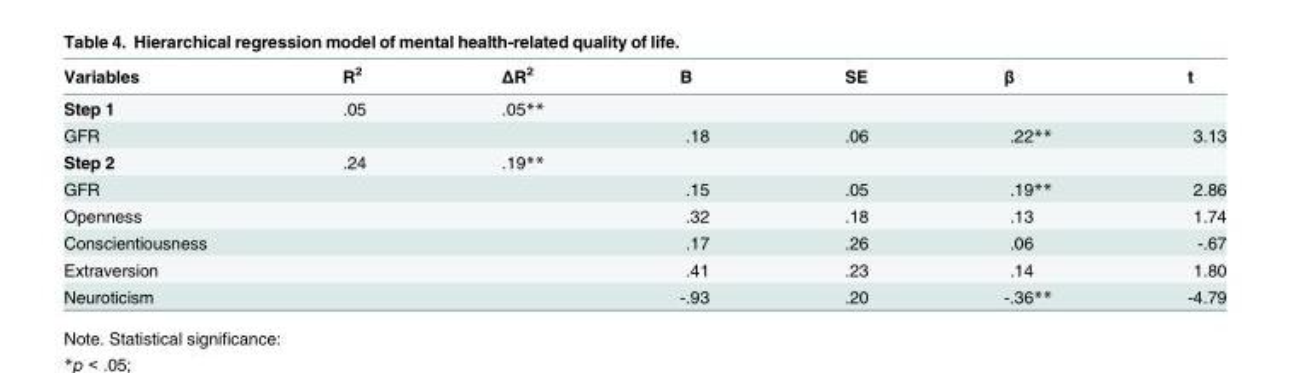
<table><thead><tr><td>Variables</td><td>R<sup>2</sup></td><td>ΔR<sup>2</sup></td><td>B</td><td>SE</td><td>β</td><td>t</td></tr></thead><tbody><tr><td>Step 1</td><td>.05</td><td>.05**</td><td></td><td></td><td></td><td></td></tr><tr><td>GFR</td><td></td><td></td><td>.18</td><td>.06</td><td>.22**</td><td>3.13</td></tr><tr><td>Step 2</td><td>.24</td><td>.19**</td><td></td><td></td><td></td><td></td></tr><tr><td>GFR</td><td></td><td></td><td>.15</td><td>.05</td><td>.19**</td><td>2.86</td></tr><tr><td>Openness</td><td></td><td></td><td>.32</td><td>.18</td><td>.13</td><td>1.74</td></tr><tr><td>Conscientiousness</td><td></td><td></td><td>.17</td><td>.26</td><td>.06</td><td>-.67</td></tr><tr><td>Extraversion</td><td></td><td></td><td>.41</td><td>.23</td><td>.14</td><td>1.80</td></tr><tr><td>Neuroticism</td><td></td><td></td><td>-.93</td><td>.20</td><td>-.36**</td><td>-4.79</td></tr></tbody></table>